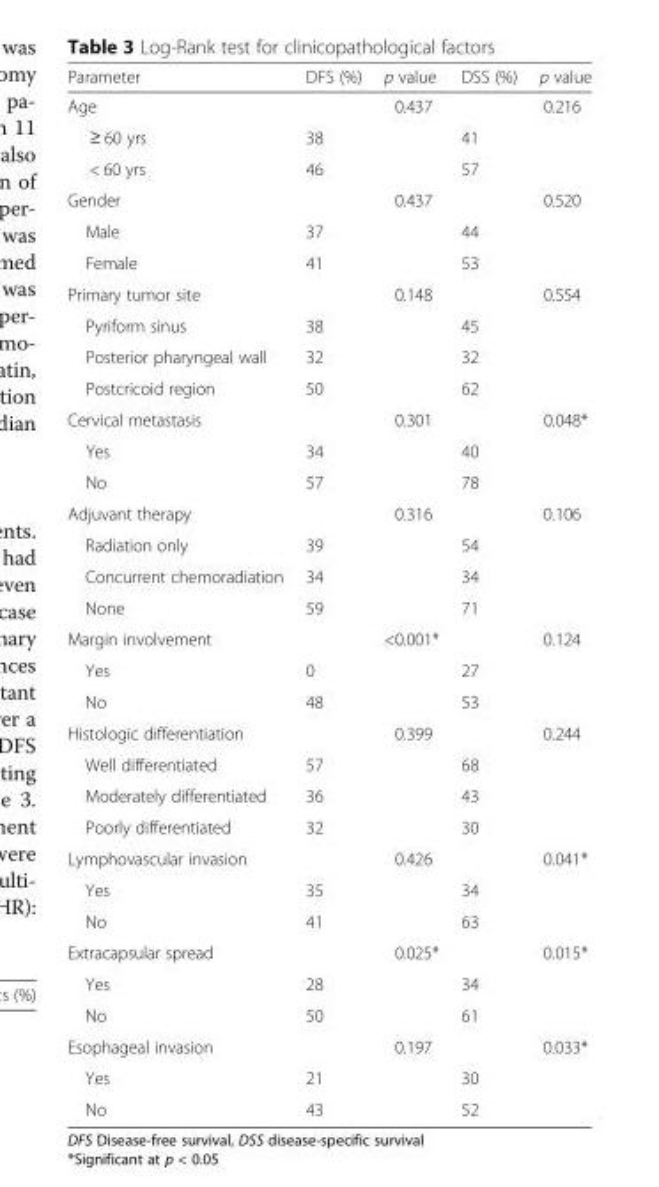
<table><thead><tr><td>Parameter</td><td>DFS (%)</td><td>p value</td><td>DSS (%)</td><td>p value</td></tr></thead><tbody><tr><td>Age</td><td></td><td>0.437</td><td></td><td>0.216</td></tr><tr><td>≥ 60 yrs</td><td>38</td><td></td><td>41</td><td></td></tr><tr><td>&lt; 60 yrs</td><td>46</td><td></td><td>57</td><td></td></tr><tr><td>Gender</td><td></td><td>0.437</td><td></td><td>0.520</td></tr><tr><td>Male</td><td>37</td><td></td><td>44</td><td></td></tr><tr><td>Female</td><td>41</td><td></td><td>53</td><td></td></tr><tr><td>Primary tumor site</td><td></td><td>0.148</td><td></td><td>0.554</td></tr><tr><td>Pyriform sinus</td><td>38</td><td></td><td>45</td><td></td></tr><tr><td>Posterior pharyngeal wall</td><td>32</td><td></td><td>32</td><td></td></tr><tr><td>Postcricoid region</td><td>50</td><td></td><td>62</td><td></td></tr><tr><td>Cervical metastasis</td><td></td><td>0.301</td><td></td><td>0.048*</td></tr><tr><td>Yes</td><td>34</td><td></td><td>40</td><td></td></tr><tr><td>No</td><td>57</td><td></td><td>78</td><td></td></tr><tr><td>Adjuvant therapy</td><td></td><td>0.316</td><td></td><td>0.106</td></tr><tr><td>Radiation only</td><td>39</td><td></td><td>54</td><td></td></tr><tr><td>Concurrent chemoradiation</td><td>34</td><td></td><td>34</td><td></td></tr><tr><td>None</td><td>59</td><td></td><td>71</td><td></td></tr><tr><td>Margin involvement</td><td></td><td>&lt;0.001*</td><td></td><td>0.124</td></tr><tr><td>Yes</td><td>0</td><td></td><td>27</td><td></td></tr><tr><td>No</td><td>48</td><td></td><td>53</td><td></td></tr><tr><td>Histologic differentiation</td><td></td><td>0.399</td><td></td><td>0.244</td></tr><tr><td>Well differentiated</td><td>57</td><td></td><td>68</td><td></td></tr><tr><td>Moderately differentiated</td><td>36</td><td></td><td>43</td><td></td></tr><tr><td>Poorly differentiated</td><td>32</td><td></td><td>30</td><td></td></tr><tr><td>Lymphovascular invasion</td><td></td><td>0.426</td><td></td><td>0.041*</td></tr><tr><td>Yes</td><td>35</td><td></td><td>34</td><td></td></tr><tr><td>No</td><td>41</td><td></td><td>63</td><td></td></tr><tr><td>Extracapsular spread</td><td></td><td>0.025*</td><td></td><td>0.015*</td></tr><tr><td>Yes</td><td>28</td><td></td><td>34</td><td></td></tr><tr><td>No</td><td>50</td><td></td><td>61</td><td></td></tr><tr><td>Esophageal invasion</td><td></td><td>0.197</td><td></td><td>0.033*</td></tr><tr><td>Yes</td><td>21</td><td></td><td>30</td><td></td></tr><tr><td>No</td><td>43</td><td></td><td>52</td><td></td></tr></tbody></table>